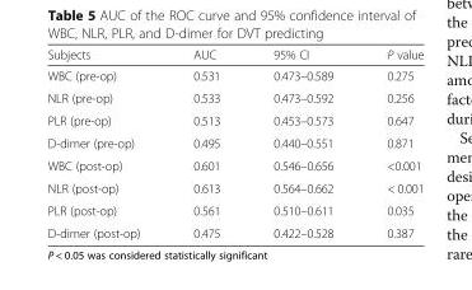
<table><thead><tr><td>Subjects</td><td>AUC</td><td>95% CI</td><td>P value</td></tr></thead><tbody><tr><td>WBC (pre-op)</td><td>0.531</td><td>0.473–0.589</td><td>0.275</td></tr><tr><td>NLR (pre-op)</td><td>0.533</td><td>0.473–0.592</td><td>0.256</td></tr><tr><td>PLR (pre-op)</td><td>0.513</td><td>0.453–0.573</td><td>0.647</td></tr><tr><td>D-dimer (pre-op)</td><td>0.495</td><td>0.440–0.551</td><td>0.871</td></tr><tr><td>WBC (post-op)</td><td>0.601</td><td>0.546–0.656</td><td>&lt;0.001</td></tr><tr><td>NLR (post-op)</td><td>0.613</td><td>0.564–0.662</td><td>&lt; 0.001</td></tr><tr><td>PLR (post-op)</td><td>0.561</td><td>0.510–0.611</td><td>0.035</td></tr><tr><td>D-dimer (post-op)</td><td>0.475</td><td>0.422–0.528</td><td>0.387</td></tr></tbody></table>